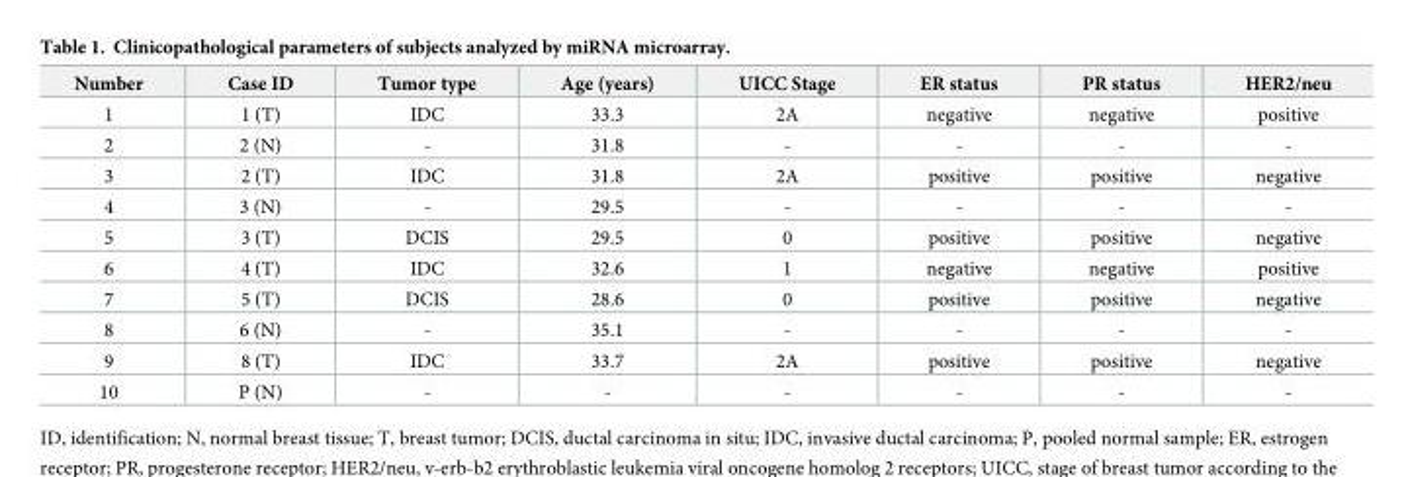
<table><thead><tr><td>Number</td><td>Case ID</td><td>Tumor type</td><td>Age (years)</td><td>UICC Stage</td><td>ER status</td><td>PR status</td><td>HER2/neu</td></tr></thead><tbody><tr><td>1</td><td>1 (T)</td><td>IDC</td><td>33.3</td><td>2A</td><td>negative</td><td>negative</td><td>positive</td></tr><tr><td>2</td><td>2 (N)</td><td>-</td><td>31.8</td><td>-</td><td>-</td><td>-</td><td>-</td></tr><tr><td>3</td><td>2 (T)</td><td>IDC</td><td>31.8</td><td>2A</td><td>positive</td><td>positive</td><td>negative</td></tr><tr><td>4</td><td>3 (N)</td><td>-</td><td>29.5</td><td>-</td><td>-</td><td>-</td><td>-</td></tr><tr><td>5</td><td>3 (T)</td><td>DCIS</td><td>29.5</td><td>0</td><td>positive</td><td>positive</td><td>negative</td></tr><tr><td>6</td><td>4 (T)</td><td>IDC</td><td>32.6</td><td>1</td><td>negative</td><td>negative</td><td>positive</td></tr><tr><td>7</td><td>5 (T)</td><td>DCIS</td><td>28.6</td><td>0</td><td>positive</td><td>positive</td><td>negative</td></tr><tr><td>8</td><td>6 (N)</td><td>-</td><td>35.1</td><td>-</td><td>-</td><td>-</td><td>-</td></tr><tr><td>9</td><td>8 (T)</td><td>IDC</td><td>33.7</td><td>2A</td><td>positive</td><td>positive</td><td>negative</td></tr><tr><td>10</td><td>P (N)</td><td>-</td><td>-</td><td>-</td><td>-</td><td>-</td><td>-</td></tr></tbody></table>